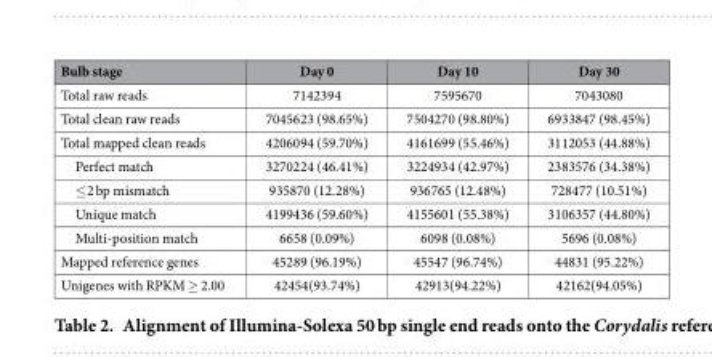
<table><thead><tr><td>Bulb stage</td><td>Day 0</td><td>Day 10</td><td>Day 30</td></tr></thead><tbody><tr><td>Total raw reads</td><td>7142394</td><td>7595670</td><td>7043080</td></tr><tr><td>Total clean raw reads</td><td>7045623 (98.65%)</td><td>7504270 (98.80%)</td><td>6933847 (98.45%)</td></tr><tr><td>Total mapped clean reads</td><td>4206094 (59.70%)</td><td>4161699 (55.46%)</td><td>3112053 (44.88%)</td></tr><tr><td>Perfect match</td><td>3270224 (46.41%)</td><td>3224934 (42.97%)</td><td>2383576 (34.38%)</td></tr><tr><td>≤ 2 bp mismatch</td><td>935870 (12.28%)</td><td>936765 (12.48%)</td><td>728477 (10.51%)</td></tr><tr><td>Unique match</td><td>4199436 (59.60%)</td><td>4155601 (55.38%)</td><td>3106357 (44.80%)</td></tr><tr><td>Multi-position match</td><td>6658 (0.09%)</td><td>6098 (0.08%)</td><td>5696 (0.08%)</td></tr><tr><td>Mapped reference genes</td><td>45289 (96.19%)</td><td>45547 (96.74%)</td><td>44831 (95.22%)</td></tr><tr><td>Unigenes with RPKM ≥ 2.00</td><td>42454(93.74%)</td><td>42913(94.22%)</td><td>42162(94.05%)</td></tr></tbody></table>